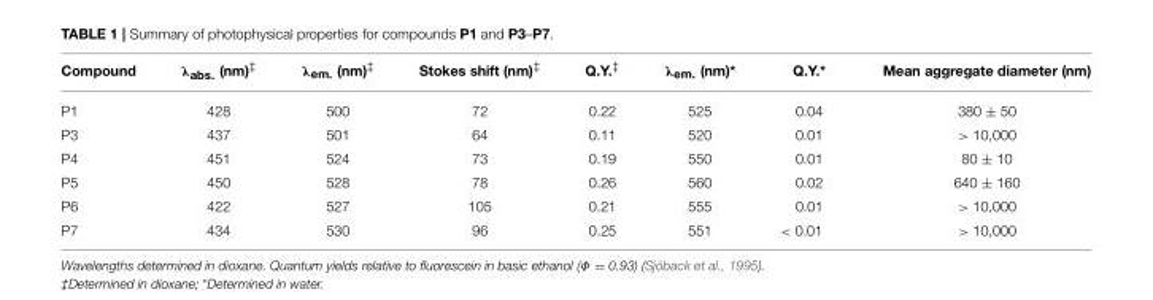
<table><thead><tr><td>Compound</td><td>λ<sub>abs.</sub> (nm)<sup>‡</sup></td><td>λ<sub>em.</sub> (nm)<sup>‡</sup></td><td>Stokes shift (nm)<sup>‡</sup></td><td>Q.Y.<sup>‡</sup></td><td>λ<sub>em.</sub> (nm)*</td><td>Q.Y.*</td><td>Mean aggregate diameter (nm)</td></tr></thead><tbody><tr><td>P1</td><td>428</td><td>500</td><td>72</td><td>0.22</td><td>525</td><td>0.04</td><td>380 ± 50</td></tr><tr><td>P3</td><td>437</td><td>501</td><td>64</td><td>0.11</td><td>520</td><td>0.01</td><td>&gt; 10,000</td></tr><tr><td>P4</td><td>451</td><td>524</td><td>73</td><td>0.19</td><td>550</td><td>0.01</td><td>80 ± 10</td></tr><tr><td>P5</td><td>450</td><td>528</td><td>78</td><td>0.26</td><td>560</td><td>0.02</td><td>640 ± 160</td></tr><tr><td>P6</td><td>422</td><td>527</td><td>105</td><td>0.21</td><td>555</td><td>0.01</td><td>&gt; 10,000</td></tr><tr><td>P7</td><td>434</td><td>530</td><td>96</td><td>0.25</td><td>551</td><td>&lt; 0.01</td><td>&gt; 10,000</td></tr></tbody></table>